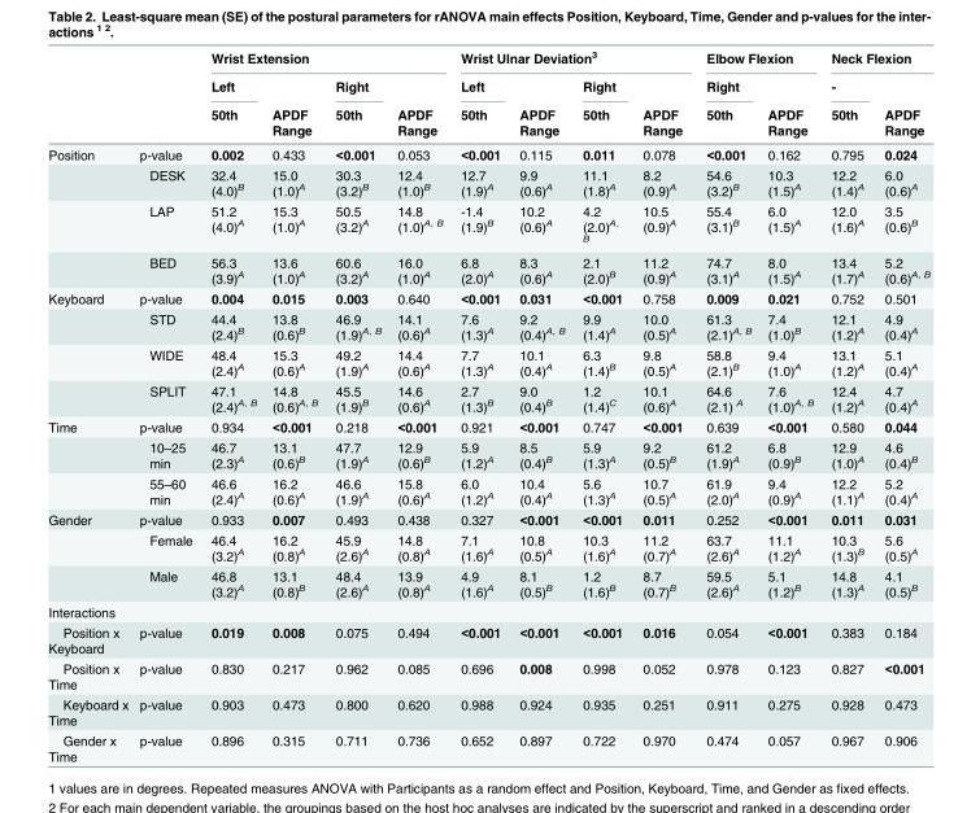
<table><thead><tr><td rowspan="3"></td><td rowspan="3"></td><td colspan="4">Wrist Extension</td><td colspan="4">Wrist Ulnar Deviation<sup>3</sup></td><td colspan="2">Elbow Flexion</td><td colspan="2">Neck Flexion</td></tr><tr><td rowspan="2">Left 50th</td><td rowspan="2">APDF Range</td><td rowspan="2">Right 50th</td><td rowspan="2">APDF Range</td><td rowspan="2">Left 50th</td><td rowspan="2">APDF Range</td><td rowspan="2">Right 50th</td><td rowspan="2">APDF Range</td><td rowspan="2">Right 50th</td><td rowspan="2">APDF Range</td><td rowspan="2">- 50th</td><td rowspan="2">APDF Range</td></tr><tr></tr></thead><tbody><tr><td rowspan="4">Position</td><td>p-value</td><td>0.002</td><td>0.433</td><td>&lt;0.001</td><td>0.053</td><td>&lt;0.001</td><td>0.115</td><td>0.011</td><td>0.078</td><td>&lt;0.001</td><td>0.162</td><td>0.795</td><td>0.024</td></tr><tr><td>DESK</td><td>32.4 (4.0)<sup>B</sup></td><td>15.0 (1.0)<sup>A</sup></td><td>30.3 (3.2)<sup>B</sup></td><td>12.4 (1.0)<sup>B</sup></td><td>12.7 (1.9)<sup>A</sup></td><td>9.9 (0.6)<sup>A</sup></td><td>11.1 (1.8)<sup>A</sup></td><td>8.2 (0.9)<sup>A</sup></td><td>54.6 (3.2)<sup>B</sup></td><td>10.3 (1.5)<sup>A</sup></td><td>12.2 (1.4)<sup>A</sup></td><td>6.0 (0.6)<sup>A</sup></td></tr><tr><td>LAP</td><td>51.2 (4.0)<sup>A</sup></td><td>15.3 (1.0)<sup>A</sup></td><td>50.5 (3.2)<sup>A</sup></td><td>14.8 (1.0)<sup>A, B</sup></td><td>-1.4 (1.9)<sup>B</sup></td><td>10.2 (0.6)<sup>A</sup></td><td>4.2 (2.0)<sup>A, B</sup></td><td>10.5 (0.9)<sup>A</sup></td><td>55.4 (3.1)<sup>B</sup></td><td>6.0 (1.5)<sup>A</sup></td><td>12.0 (1.6)<sup>A</sup></td><td>3.5 (0.6)<sup>B</sup></td></tr><tr><td>BED</td><td>56.3 (3.9)<sup>A</sup></td><td>13.6 (1.0)<sup>A</sup></td><td>60.6 (3.2)<sup>A</sup></td><td>16.0 (1.0)<sup>A</sup></td><td>6.8 (2.0)<sup>A</sup></td><td>8.3 (0.6)<sup>A</sup></td><td>2.1 (2.0)<sup>B</sup></td><td>11.2 (0.9)<sup>A</sup></td><td>74.7 (3.1)<sup>A</sup></td><td>8.0 (1.5)<sup>A</sup></td><td>13.4 (1.7)<sup>A</sup></td><td>5.2 (0.6)<sup>A, B</sup></td></tr><tr><td rowspan="4">Keyboard</td><td>p-value</td><td>0.004</td><td>0.015</td><td>0.003</td><td>0.640</td><td>&lt;0.001</td><td>0.031</td><td>&lt;0.001</td><td>0.758</td><td>0.009</td><td>0.021</td><td>0.752</td><td>0.501</td></tr><tr><td>STD</td><td>44.4 (2.4)<sup>B</sup></td><td>13.8 (0.6)<sup>B</sup></td><td>46.9 (1.9)<sup>A, B</sup></td><td>14.1 (0.6)<sup>A</sup></td><td>7.6 (1.3)<sup>A</sup></td><td>9.2 (0.4)<sup>A, B</sup></td><td>9.9 (1.4)<sup>A</sup></td><td>10.0 (0.5)<sup>A</sup></td><td>61.3 (2.1)<sup>A, B</sup></td><td>7.4 (1.0)<sup>B</sup></td><td>12.1 (1.2)<sup>A</sup></td><td>4.9 (0.4)<sup>A</sup></td></tr><tr><td>WIDE</td><td>48.4 (2.4)<sup>A</sup></td><td>15.3 (0.6)<sup>A</sup></td><td>49.2 (1.9)<sup>A</sup></td><td>14.4 (0.6)<sup>A</sup></td><td>7.7 (1.3)<sup>A</sup></td><td>10.1 (0.4)<sup>A</sup></td><td>6.3 (1.4)<sup>B</sup></td><td>9.8 (0.5)<sup>A</sup></td><td>58.8 (2.1)<sup>B</sup></td><td>9.4 (1.0)<sup>A</sup></td><td>13.1 (1.2)<sup>A</sup></td><td>5.1 (0.4)<sup>A</sup></td></tr><tr><td>SPLIT</td><td>47.1 (2.4)<sup>A, B</sup></td><td>14.8 (0.6)<sup>A, B</sup></td><td>45.5 (1.9)<sup>B</sup></td><td>14.6 (0.6)<sup>A</sup></td><td>2.7 (1.3)<sup>B</sup></td><td>9.0 (0.4)<sup>B</sup></td><td>1.2 (1.4)<sup>C</sup></td><td>10.1 (0.6)<sup>A</sup></td><td>64.6 (2.1) <sup>A</sup></td><td>7.6 (1.0)<sup>A, B</sup></td><td>12.4 (1.2)<sup>A</sup></td><td>4.7 (0.4)<sup>A</sup></td></tr><tr><td rowspan="3">Time</td><td>p-value</td><td>0.934</td><td>&lt;0.001</td><td>0.218</td><td>&lt;0.001</td><td>0.921</td><td>&lt;0.001</td><td>0.747</td><td>&lt;0.001</td><td>0.639</td><td>&lt;0.001</td><td>0.580</td><td>0.044</td></tr><tr><td>10–25 min</td><td>46.7 (2.3)<sup>A</sup></td><td>13.1 (0.6)<sup>B</sup></td><td>47.7 (1.9)<sup>A</sup></td><td>12.9 (0.6)<sup>B</sup></td><td>5.9 (1.2)<sup>A</sup></td><td>8.5 (0.4)<sup>B</sup></td><td>5.9 (1.3)<sup>A</sup></td><td>9.2 (0.5)<sup>B</sup></td><td>61.2 (1.9)<sup>A</sup></td><td>6.8 (0.9)<sup>B</sup></td><td>12.9 (1.0)<sup>A</sup></td><td>4.6 (0.4)<sup>B</sup></td></tr><tr><td>55–60 min</td><td>46.6 (2.4)<sup>A</sup></td><td>16.2 (0.6)<sup>A</sup></td><td>46.6 (1.9)<sup>A</sup></td><td>15.8 (0.6)<sup>A</sup></td><td>6.0 (1.2)<sup>A</sup></td><td>10.4 (0.4)<sup>A</sup></td><td>5.6 (1.3)<sup>A</sup></td><td>10.7 (0.5)<sup>A</sup></td><td>61.9 (2.0)<sup>A</sup></td><td>9.4 (0.9)<sup>A</sup></td><td>12.2 (1.1)<sup>A</sup></td><td>5.2 (0.4)<sup>A</sup></td></tr><tr><td rowspan="3">Gender</td><td>p-value</td><td>0.933</td><td>0.007</td><td>0.493</td><td>0.438</td><td>0.327</td><td>&lt;0.001</td><td>&lt;0.001</td><td>0.011</td><td>0.252</td><td>&lt;0.001</td><td>0.011</td><td>0.031</td></tr><tr><td>Female</td><td>46.4 (3.2)<sup>A</sup></td><td>16.2 (0.8)<sup>A</sup></td><td>45.9 (2.6)<sup>A</sup></td><td>14.8 (0.8)<sup>A</sup></td><td>7.1 (1.6)<sup>A</sup></td><td>10.8 (0.5)<sup>A</sup></td><td>10.3 (1.6)<sup>A</sup></td><td>11.2 (0.7)<sup>A</sup></td><td>63.7 (2.6)<sup>A</sup></td><td>11.1 (1.2)<sup>A</sup></td><td>10.3 (1.3)<sup>B</sup></td><td>5.6 (0.5)<sup>A</sup></td></tr><tr><td>Male</td><td>46.8 (3.2)<sup>A</sup></td><td>13.1 (0.8)<sup>B</sup></td><td>48.4 (2.6)<sup>A</sup></td><td>13.9 (0.8)<sup>A</sup></td><td>4.9 (1.6)<sup>A</sup></td><td>8.1 (0.5)<sup>B</sup></td><td>1.2 (1.6)<sup>B</sup></td><td>8.7 (0.7)<sup>B</sup></td><td>59.5 (2.6)<sup>A</sup></td><td>5.1 (1.2)<sup>B</sup></td><td>14.8 (1.3)<sup>A</sup></td><td>4.1 (0.5)<sup>B</sup></td></tr><tr><td colspan="14">Interactions</td></tr><tr><td>Position x Keyboard</td><td>p-value</td><td>0.019</td><td>0.008</td><td>0.075</td><td>0.494</td><td>&lt;0.001</td><td>&lt;0.001</td><td>&lt;0.001</td><td>0.016</td><td>0.054</td><td>&lt;0.001</td><td>0.383</td><td>0.184</td></tr><tr><td>Position x Time</td><td>p-value</td><td>0.830</td><td>0.217</td><td>0.962</td><td>0.085</td><td>0.696</td><td>0.008</td><td>0.998</td><td>0.052</td><td>0.978</td><td>0.123</td><td>0.827</td><td>&lt;0.001</td></tr><tr><td>Keyboard x Time</td><td>p-value</td><td>0.903</td><td>0.473</td><td>0.800</td><td>0.620</td><td>0.988</td><td>0.924</td><td>0.935</td><td>0.251</td><td>0.911</td><td>0.275</td><td>0.928</td><td>0.473</td></tr><tr><td>Gender x Time</td><td>p-value</td><td>0.896</td><td>0.315</td><td>0.711</td><td>0.736</td><td>0.652</td><td>0.897</td><td>0.722</td><td>0.970</td><td>0.474</td><td>0.057</td><td>0.967</td><td>0.906</td></tr></tbody></table>